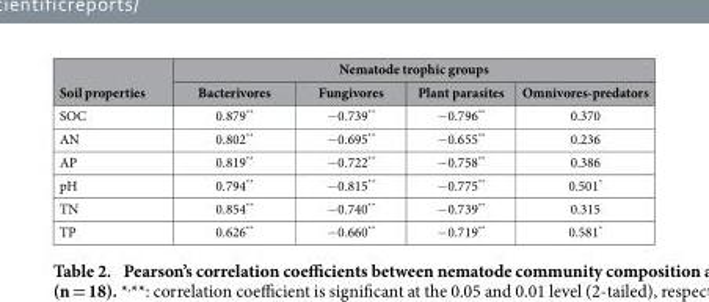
<table><thead><tr><td rowspan="2">Soil properties</td><td colspan="4">Nematode trophic groups</td></tr><tr><td>Bacterivores</td><td>Fungivores</td><td>Plant parasites</td><td>Omnivores-predators</td></tr></thead><tbody><tr><td>SOC</td><td>0.879**</td><td>− 0.739**</td><td>− 0.796**</td><td>0.370</td></tr><tr><td>AN</td><td>0.802**</td><td>− 0.695**</td><td>− 0.655**</td><td>0.236</td></tr><tr><td>AP</td><td>0.819**</td><td>− 0.722**</td><td>− 0.758**</td><td>0.386</td></tr><tr><td>pH</td><td>0.794**</td><td>− 0.815**</td><td>− 0.775**</td><td>0.501*</td></tr><tr><td>TN</td><td>0.854**</td><td>− 0.740**</td><td>− 0.739**</td><td>0.315</td></tr><tr><td>TP</td><td>0.626**</td><td>− 0.660**</td><td>− 0.719**</td><td>0.581*</td></tr></tbody></table>